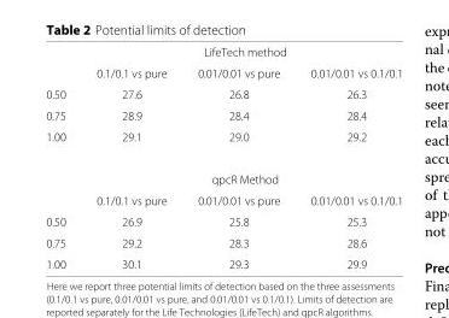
<table><thead><tr><td rowspan="2"></td><td colspan="3">LifeTech method</td></tr><tr><td>0.1/0.1 vs pure</td><td>0.01/0.01 vs pure</td><td>0.01/0.01 vs 0.1/0.1</td></tr></thead><tbody><tr><td>0.50</td><td>27.6</td><td>26.8</td><td>26.3</td></tr><tr><td>0.75</td><td>28.9</td><td>28.4</td><td>28.4</td></tr><tr><td rowspan="3">1.00</td><td>29.1</td><td>29.0</td><td>29.2</td></tr><tr><td colspan="3">qpcR Method</td></tr><tr><td>0.1/0.1 vs pure</td><td>0.01/0.01 vs pure</td><td>0.01/0.01 vs 0.1/0.1</td></tr><tr><td>0.50</td><td>26.9</td><td>25.8</td><td>25.3</td></tr><tr><td>0.75</td><td>29.2</td><td>28.3</td><td>28.6</td></tr><tr><td>1.00</td><td>30.1</td><td>29.3</td><td>29.9</td></tr></tbody></table>